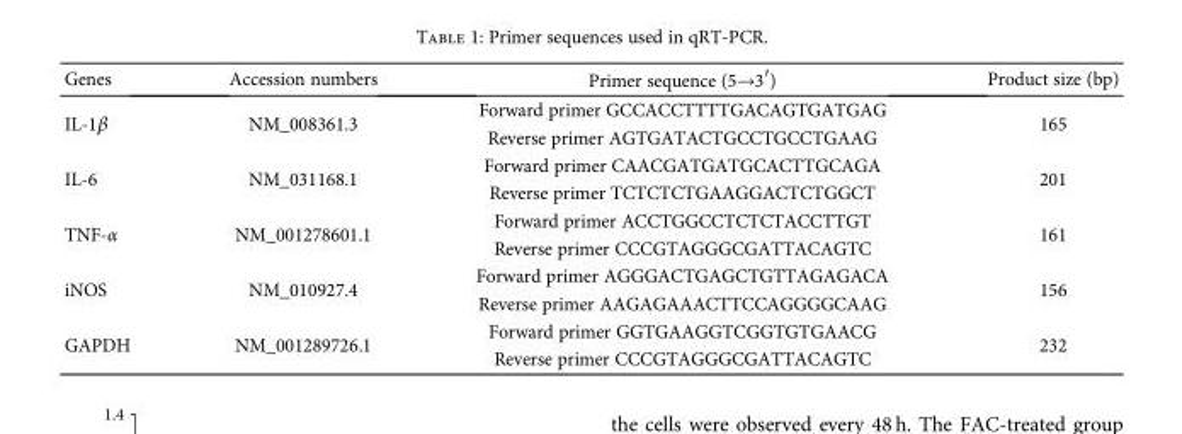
<table><thead><tr><td>Genes</td><td>Accession numbers</td><td>Primer sequence (5→3′)</td><td>Product size (bp)</td></tr></thead><tbody><tr><td rowspan="2">IL-1β</td><td rowspan="2">NM_008361.3</td><td>Forward primer GCCACCTTTTGACAGTGATGAG</td><td rowspan="2">165</td></tr><tr><td>Reverse primer AGTGATACTGCCTGCCTGAAG</td></tr><tr><td rowspan="2">IL-6</td><td rowspan="2">NM_031168.1</td><td>Forward primer CAACGATGATGCACTTGCAGA</td><td rowspan="2">201</td></tr><tr><td>Reverse primer TCTCTCTGAAGGACTCTGGCT</td></tr><tr><td rowspan="2">TNF-α</td><td rowspan="2">NM_001278601.1</td><td>Forward primer ACCTGGCCTCTCTACCTTGT</td><td rowspan="2">161</td></tr><tr><td>Reverse primer CCCGTAGGGCGATTACAGTC</td></tr><tr><td rowspan="2">iNOS</td><td rowspan="2">NM_010927.4</td><td>Forward primer AGGGACTGAGCTGTTAGAGACA</td><td rowspan="2">156</td></tr><tr><td>Reverse primer AAGAGAAACTTCCAGGGGCAAG</td></tr><tr><td rowspan="2">GAPDH</td><td rowspan="2">NM_001289726.1</td><td>Forward primer GGTGAAGGTCGGTGTGAACG</td><td rowspan="2">232</td></tr><tr><td>Reverse primer CCCGTAGGGCGATTACAGTC</td></tr></tbody></table>